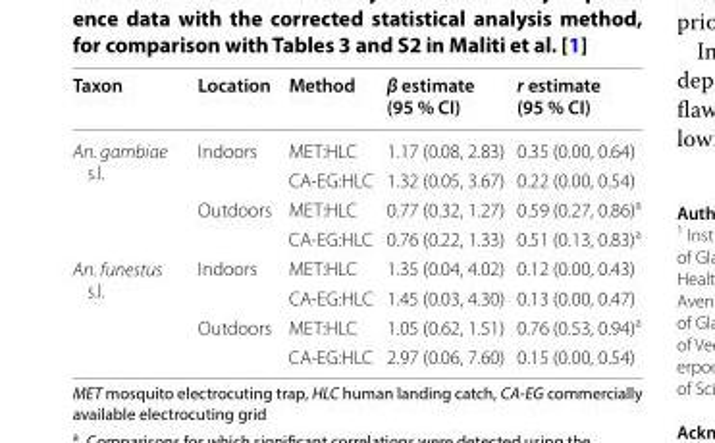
<table><thead><tr><td>Taxon</td><td>Location</td><td>Method</td><td>β estimate (95 % CI)</td><td>r estimate (95 % CI)</td></tr></thead><tbody><tr><td rowspan="4">An. gambiae s.l.</td><td rowspan="2">Indoors</td><td>MET:HLC</td><td>1.17 (0.08, 2.83)</td><td>0.35 (0.00, 0.64)</td></tr><tr><td>CA-EG:HLC</td><td>1.32 (0.05, 3.67)</td><td>0.22 (0.00, 0.54)</td></tr><tr><td rowspan="2">Outdoors</td><td>MET:HLC</td><td>0.77 (0.32, 1.27)</td><td>0.59 (0.27, 0.86)<sup>a</sup></td></tr><tr><td>CA-EG:HLC</td><td>0.76 (0.22, 1.33)</td><td>0.51 (0.13, 0.83)<sup>a</sup></td></tr><tr><td rowspan="4">An. funestus s.l.</td><td rowspan="2">Indoors</td><td>MET:HLC</td><td>1.35 (0.04, 4.02)</td><td>0.12 (0.00, 0.43)</td></tr><tr><td>CA-EG:HLC</td><td>1.45 (0.03, 4.30)</td><td>0.13 (0.00, 0.47)</td></tr><tr><td rowspan="2">Outdoors</td><td>MET:HLC</td><td>1.05 (0.62, 1.51)</td><td>0.76 (0.53, 0.94)<sup>a</sup></td></tr><tr><td>CA-EG:HLC</td><td>2.97 (0.06, 7.60)</td><td>0.15 (0.00, 0.54)</td></tr></tbody></table>